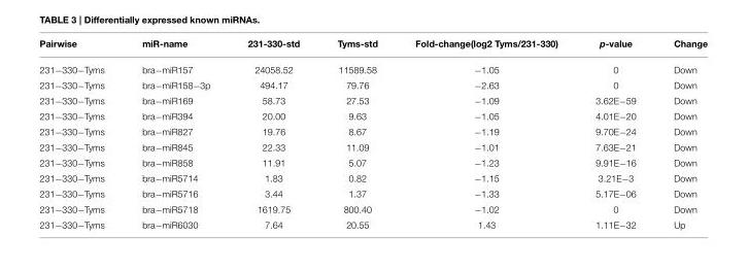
<table><thead><tr><td>Pairwise</td><td>miR-name</td><td>231-330-std</td><td>Tyms-std</td><td>Fold-change(log2 Tyms/231-330)</td><td>p-value</td><td>Change</td></tr></thead><tbody><tr><td>231−330−Tyms</td><td>bra−miR157</td><td>24058.52</td><td>11589.58</td><td>−1.05</td><td>0</td><td>Down</td></tr><tr><td>231−330−Tyms</td><td>bra−miR158−3p</td><td>494.17</td><td>79.76</td><td>−2.63</td><td>0</td><td>Down</td></tr><tr><td>231−330−Tyms</td><td>bra−miR169</td><td>58.73</td><td>27.53</td><td>−1.09</td><td>3.62E−59</td><td>Down</td></tr><tr><td>231−330−Tyms</td><td>bra−miR394</td><td>20.00</td><td>9.63</td><td>−1.05</td><td>4.01E−20</td><td>Down</td></tr><tr><td>231−330−Tyms</td><td>bra−miR827</td><td>19.76</td><td>8.67</td><td>−1.19</td><td>9.70E−24</td><td>Down</td></tr><tr><td>231−330−Tyms</td><td>bra−miR845</td><td>22.33</td><td>11.09</td><td>−1.01</td><td>7.63E−21</td><td>Down</td></tr><tr><td>231−330−Tyms</td><td>bra−miR858</td><td>11.91</td><td>5.07</td><td>−1.23</td><td>9.91E−16</td><td>Down</td></tr><tr><td>231−330−Tyms</td><td>bra−miR5714</td><td>1.83</td><td>0.82</td><td>−1.15</td><td>3.21E−3</td><td>Down</td></tr><tr><td>231−330−Tyms</td><td>bra−miR5716</td><td>3.44</td><td>1.37</td><td>−1.33</td><td>5.17E−06</td><td>Down</td></tr><tr><td>231−330−Tyms</td><td>bra−miR5718</td><td>1619.75</td><td>800.40</td><td>−1.02</td><td>0</td><td>Down</td></tr><tr><td>231−330−Tyms</td><td>bra−miR6030</td><td>7.64</td><td>20.55</td><td>1.43</td><td>1.11E−32</td><td>Up</td></tr></tbody></table>